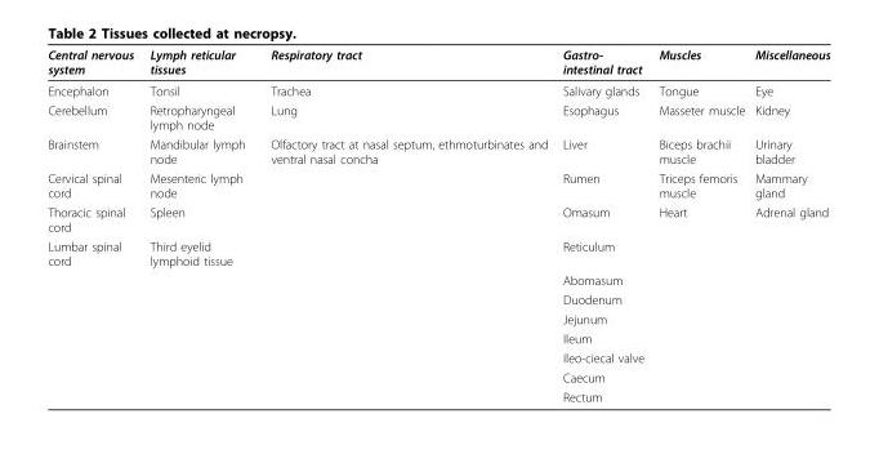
<table><thead><tr><td>Central nervous system</td><td>Lymph reticular tissues</td><td>Respiratory tract</td><td>Gastro- intestinal tract</td><td>Muscles</td><td>Miscellaneous</td></tr></thead><tbody><tr><td>Encephalon</td><td>Tonsil</td><td>Trachea</td><td>Salivary glands</td><td>Tongue</td><td>Eye</td></tr><tr><td>Cerebellum</td><td>Retropharyngeal lymph node</td><td>Lung</td><td>Esophagus</td><td>Masseter muscle</td><td>Kidney</td></tr><tr><td>Brainstem</td><td>Mandibular lymph node</td><td>Olfactory tract at nasal septum, ethmoturbinates and ventral nasal concha</td><td>Liver</td><td>Biceps brachii muscle</td><td>Urinary bladder</td></tr><tr><td>Cervical spinal cord</td><td>Mesenteric lymph node</td><td></td><td>Rumen</td><td>Triceps femoris muscle</td><td>Mammary gland</td></tr><tr><td>Thoracic spinal cord</td><td>Spleen</td><td></td><td>Omasum</td><td>Heart</td><td>Adrenal gland</td></tr><tr><td rowspan="8">Lumbar spinal cord</td><td>Third eyelid lymphoid tissue</td><td></td><td>Reticulum</td><td></td><td></td></tr><tr><td></td><td></td><td>Abomasum</td><td></td><td></td></tr><tr><td></td><td></td><td>Duodenum</td><td></td><td></td></tr><tr><td></td><td></td><td>Jejunum</td><td></td><td></td></tr><tr><td></td><td></td><td>Ileum</td><td></td><td></td></tr><tr><td></td><td></td><td>Ileo-ciecal valve</td><td></td><td></td></tr><tr><td></td><td></td><td>Caecum</td><td></td><td></td></tr><tr><td></td><td></td><td>Rectum</td><td></td><td></td></tr></tbody></table>